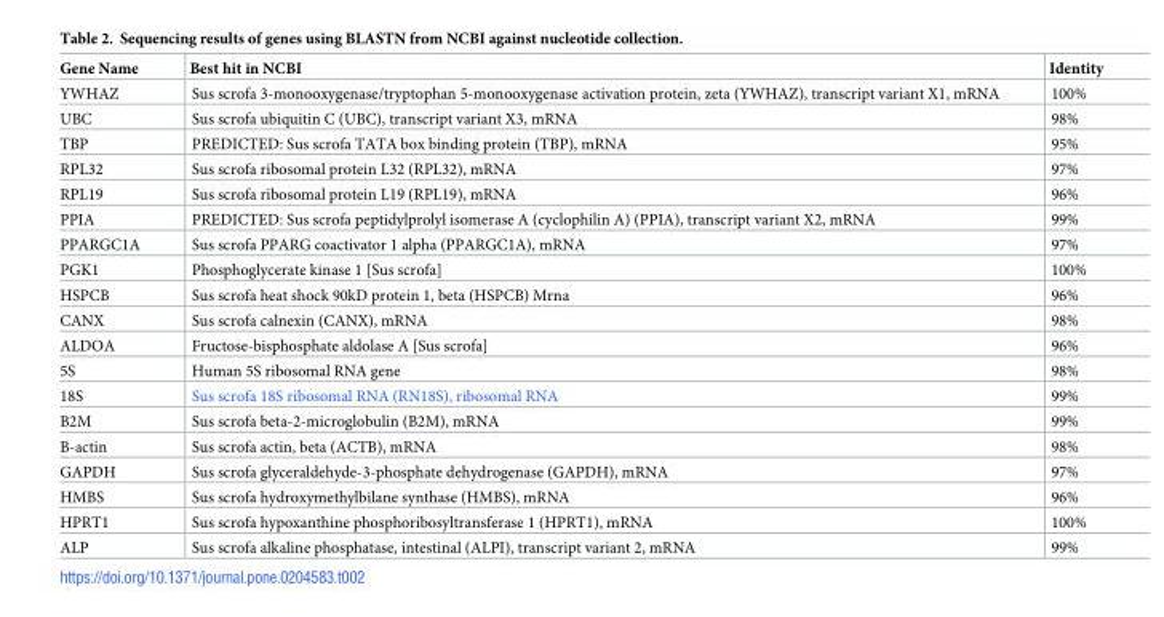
<table><thead><tr><td>Gene Name</td><td>Best hit in NCBI</td><td>Identity</td></tr></thead><tbody><tr><td>YWHAZ</td><td>Sus scrofa 3-monooxygenase/tryptophan 5-monooxygenase activation protein, zeta (YWHAZ), transcript variant X1, mRNA</td><td>100%</td></tr><tr><td>UBC</td><td>Sus scrofa ubiquitin C (UBC), transcript variant X3, mRNA</td><td>98%</td></tr><tr><td>TBP</td><td>PREDICTED: Sus scrofa TATA box binding protein (TBP), mRNA</td><td>95%</td></tr><tr><td>RPL32</td><td>Sus scrofa ribosomal protein L32 (RPL32), mRNA</td><td>97%</td></tr><tr><td>RPL19</td><td>Sus scrofa ribosomal protein L19 (RPL19), mRNA</td><td>96%</td></tr><tr><td>PPIA</td><td>PREDICTED: Sus scrofa peptidylprolyl isomerase A (cyclophilin A) (PPIA), transcript variant X2, mRNA</td><td>99%</td></tr><tr><td>PPARGC1A</td><td>Sus scrofa PPARG coactivator 1 alpha (PPARGC1A), mRNA</td><td>97%</td></tr><tr><td>PGK1</td><td>Phosphoglycerate kinase 1 [Sus scrofa]</td><td>100%</td></tr><tr><td>HSPCB</td><td>Sus scrofa heat shock 90kD protein 1, beta (HSPCB) Mrna</td><td>96%</td></tr><tr><td>CANX</td><td>Sus scrofa calnexin (CANX), mRNA</td><td>98%</td></tr><tr><td>ALDOA</td><td>Fructose-bisphosphate aldolase A [Sus scrofa]</td><td>96%</td></tr><tr><td>5S</td><td>Human 5S ribosomal RNA gene</td><td>98%</td></tr><tr><td>18S</td><td>Sus scrofa 18S ribosomal RNA (RN18S), ribosomal RNA</td><td>99%</td></tr><tr><td>B2M</td><td>Sus scrofa beta-2-microglobulin (B2M), mRNA</td><td>99%</td></tr><tr><td>B-actin</td><td>Sus scrofa actin, beta (ACTB), mRNA</td><td>98%</td></tr><tr><td>GAPDH</td><td>Sus scrofa glyceraldehyde-3-phosphate dehydrogenase (GAPDH), mRNA</td><td>97%</td></tr><tr><td>HMBS</td><td>Sus scrofa hydroxymethylbilane synthase (HMBS), mRNA</td><td>96%</td></tr><tr><td>HPRT1</td><td>Sus scrofa hypoxanthine phosphoribosyltransferase 1 (HPRT1), mRNA</td><td>100%</td></tr><tr><td>ALP</td><td>Sus scrofa alkaline phosphatase, intestinal (ALPI), transcript variant 2, mRNA</td><td>99%</td></tr></tbody></table>